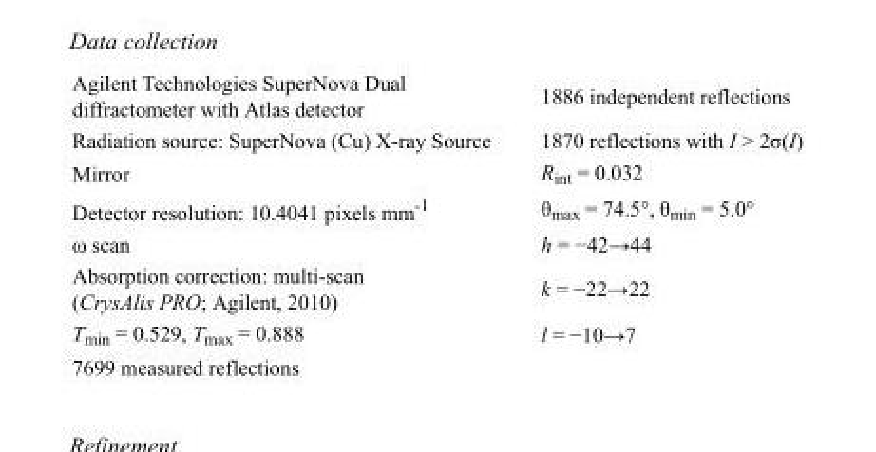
<table><tbody><tr><td>Agilent Technologies SuperNova Dual diffractometer with Atlas detector</td><td>1886 independent reflections</td></tr><tr><td>Radiation source: SuperNova (Cu) X-ray Source</td><td>1870 reflections with I &gt; 2σ(I)</td></tr><tr><td>Mirror</td><td>R<sub>int</sub> = 0.032</td></tr><tr><td>Detector resolution: 10.4041 pixels mm<sup>-1</sup></td><td>θ<sub>max</sub> = 74.5°, θ<sub>min</sub> = 5.0°</td></tr><tr><td>ω scan</td><td>h = −42→44</td></tr><tr><td>Absorption correction: multi-scan (CrysAlis PRO; Agilent, 2010)</td><td>k = −22→22</td></tr><tr><td>T<sub>min</sub> = 0.529, T<sub>max</sub> = 0.888</td><td>l = −10→7</td></tr><tr><td>7699 measured reflections</td><td></td></tr></tbody></table>